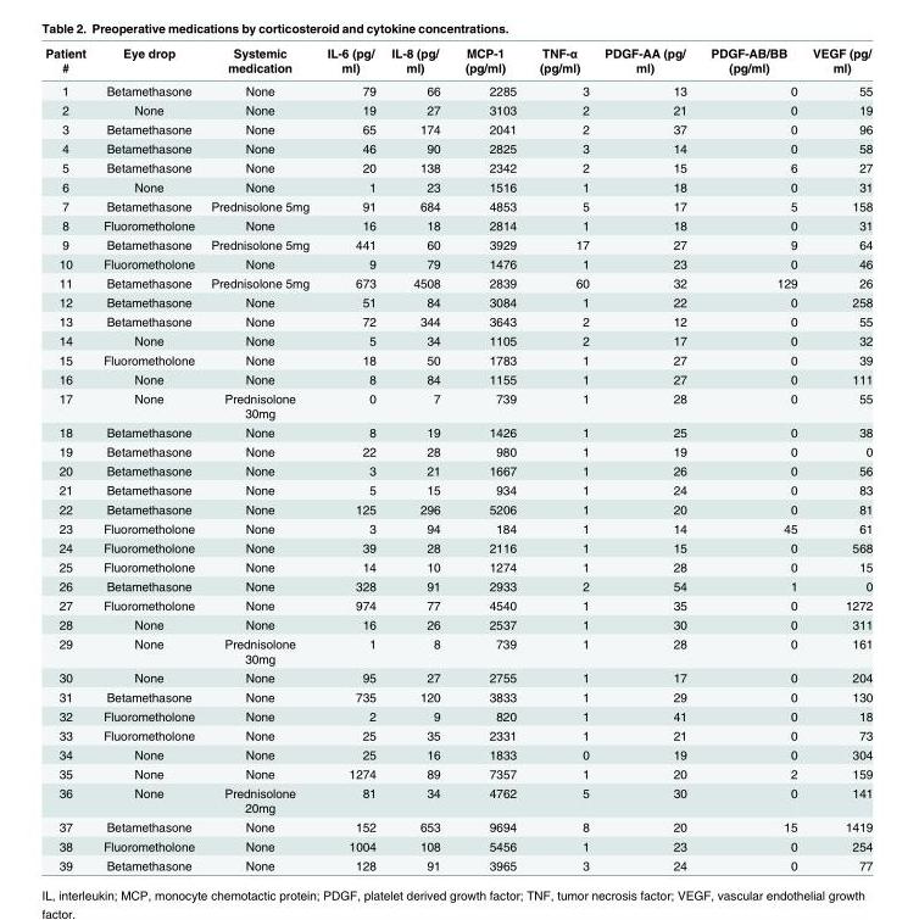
<table><thead><tr><td>Patient #</td><td>Eye drop</td><td>Systemic medication</td><td>IL-6 (pg/ ml)</td><td>IL-8 (pg/ ml)</td><td>MCP-1 (pg/ml)</td><td>TNF-α (pg/ml)</td><td>PDGF-AA (pg/ ml)</td><td>PDGF-AB/BB (pg/ml)</td><td>VEGF (pg/ ml)</td></tr></thead><tbody><tr><td>1</td><td>Betamethasone</td><td>None</td><td>79</td><td>66</td><td>2285</td><td>3</td><td>13</td><td>0</td><td>55</td></tr><tr><td>2</td><td>None</td><td>None</td><td>19</td><td>27</td><td>3103</td><td>2</td><td>21</td><td>0</td><td>19</td></tr><tr><td>3</td><td>Betamethasone</td><td>None</td><td>65</td><td>174</td><td>2041</td><td>2</td><td>37</td><td>0</td><td>96</td></tr><tr><td>4</td><td>Betamethasone</td><td>None</td><td>46</td><td>90</td><td>2825</td><td>3</td><td>14</td><td>0</td><td>58</td></tr><tr><td>5</td><td>Betamethasone</td><td>None</td><td>20</td><td>138</td><td>2342</td><td>2</td><td>15</td><td>6</td><td>27</td></tr><tr><td>6</td><td>None</td><td>None</td><td>1</td><td>23</td><td>1516</td><td>1</td><td>18</td><td>0</td><td>31</td></tr><tr><td>7</td><td>Betamethasone</td><td>Prednisolone 5mg</td><td>91</td><td>684</td><td>4853</td><td>5</td><td>17</td><td>5</td><td>158</td></tr><tr><td>8</td><td>Fluorometholone</td><td>None</td><td>16</td><td>18</td><td>2814</td><td>1</td><td>18</td><td>0</td><td>31</td></tr><tr><td>9</td><td>Betamethasone</td><td>Prednisolone 5mg</td><td>441</td><td>60</td><td>3929</td><td>17</td><td>27</td><td>9</td><td>64</td></tr><tr><td>10</td><td>Fluorometholone</td><td>None</td><td>9</td><td>79</td><td>1476</td><td>1</td><td>23</td><td>0</td><td>46</td></tr><tr><td>11</td><td>Betamethasone</td><td>Prednisolone 5mg</td><td>673</td><td>4508</td><td>2839</td><td>60</td><td>32</td><td>129</td><td>26</td></tr><tr><td>12</td><td>Betamethasone</td><td>None</td><td>51</td><td>84</td><td>3084</td><td>1</td><td>22</td><td>0</td><td>258</td></tr><tr><td>13</td><td>Betamethasone</td><td>None</td><td>72</td><td>344</td><td>3643</td><td>2</td><td>12</td><td>0</td><td>55</td></tr><tr><td>14</td><td>None</td><td>None</td><td>5</td><td>34</td><td>1105</td><td>2</td><td>17</td><td>0</td><td>32</td></tr><tr><td>15</td><td>Fluorometholone</td><td>None</td><td>18</td><td>50</td><td>1783</td><td>1</td><td>27</td><td>0</td><td>39</td></tr><tr><td>16</td><td>None</td><td>None</td><td>8</td><td>84</td><td>1155</td><td>1</td><td>27</td><td>0</td><td>111</td></tr><tr><td>17</td><td>None</td><td>Prednisolone 30mg</td><td>0</td><td>7</td><td>739</td><td>1</td><td>28</td><td>0</td><td>55</td></tr><tr><td>18</td><td>Betamethasone</td><td>None</td><td>8</td><td>19</td><td>1426</td><td>1</td><td>25</td><td>0</td><td>38</td></tr><tr><td>19</td><td>Betamethasone</td><td>None</td><td>22</td><td>28</td><td>980</td><td>1</td><td>19</td><td>0</td><td>0</td></tr><tr><td>20</td><td>Betamethasone</td><td>None</td><td>3</td><td>21</td><td>1667</td><td>1</td><td>26</td><td>0</td><td>56</td></tr><tr><td>21</td><td>Betamethasone</td><td>None</td><td>5</td><td>15</td><td>934</td><td>1</td><td>24</td><td>0</td><td>83</td></tr><tr><td>22</td><td>Betamethasone</td><td>None</td><td>125</td><td>296</td><td>5206</td><td>1</td><td>20</td><td>0</td><td>81</td></tr><tr><td>23</td><td>Fluorometholone</td><td>None</td><td>3</td><td>94</td><td>184</td><td>1</td><td>14</td><td>45</td><td>61</td></tr><tr><td>24</td><td>Fluorometholone</td><td>None</td><td>39</td><td>28</td><td>2116</td><td>1</td><td>15</td><td>0</td><td>568</td></tr><tr><td>25</td><td>Fluorometholone</td><td>None</td><td>14</td><td>10</td><td>1274</td><td>1</td><td>28</td><td>0</td><td>15</td></tr><tr><td>26</td><td>Betamethasone</td><td>None</td><td>328</td><td>91</td><td>2933</td><td>2</td><td>54</td><td>1</td><td>0</td></tr><tr><td>27</td><td>Fluorometholone</td><td>None</td><td>974</td><td>77</td><td>4540</td><td>1</td><td>35</td><td>0</td><td>1272</td></tr><tr><td>28</td><td>None</td><td>None</td><td>16</td><td>26</td><td>2537</td><td>1</td><td>30</td><td>0</td><td>311</td></tr><tr><td>29</td><td>None</td><td>Prednisolone 30mg</td><td>1</td><td>8</td><td>739</td><td>1</td><td>28</td><td>0</td><td>161</td></tr><tr><td>30</td><td>None</td><td>None</td><td>95</td><td>27</td><td>2755</td><td>1</td><td>17</td><td>0</td><td>204</td></tr><tr><td>31</td><td>Betamethasone</td><td>None</td><td>735</td><td>120</td><td>3833</td><td>1</td><td>29</td><td>0</td><td>130</td></tr><tr><td>32</td><td>Fluorometholone</td><td>None</td><td>2</td><td>9</td><td>820</td><td>1</td><td>41</td><td>0</td><td>18</td></tr><tr><td>33</td><td>Fluorometholone</td><td>None</td><td>25</td><td>35</td><td>2331</td><td>1</td><td>21</td><td>0</td><td>73</td></tr><tr><td>34</td><td>None</td><td>None</td><td>25</td><td>16</td><td>1833</td><td>0</td><td>19</td><td>0</td><td>304</td></tr><tr><td>35</td><td>None</td><td>None</td><td>1274</td><td>89</td><td>7357</td><td>1</td><td>20</td><td>2</td><td>159</td></tr><tr><td>36</td><td>None</td><td>Prednisolone 20mg</td><td>81</td><td>34</td><td>4762</td><td>5</td><td>30</td><td>0</td><td>141</td></tr><tr><td>37</td><td>Betamethasone</td><td>None</td><td>152</td><td>653</td><td>9694</td><td>8</td><td>20</td><td>15</td><td>1419</td></tr><tr><td>38</td><td>Fluorometholone</td><td>None</td><td>1004</td><td>108</td><td>5456</td><td>1</td><td>23</td><td>0</td><td>254</td></tr><tr><td>39</td><td>Betamethasone</td><td>None</td><td>128</td><td>91</td><td>3965</td><td>3</td><td>24</td><td>0</td><td>77</td></tr></tbody></table>